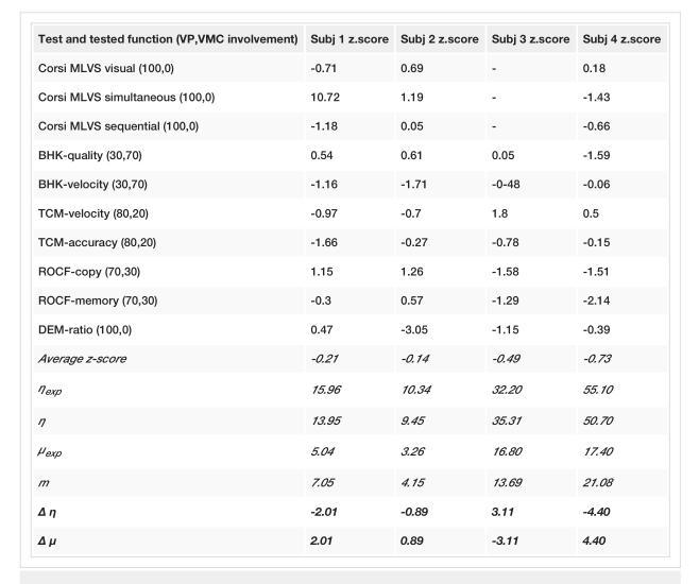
<table><tbody><tr><td>Test and tested function (VP,VMC involvement)</td><td>Subj 1 z.score</td><td>Subj 2 z.score</td><td>Subj 3 z.score</td><td>Subj 4 z.score</td></tr><tr><td>Corsi MLVS visual (100,0)</td><td>-0.71</td><td>0.69</td><td>-</td><td>0.18</td></tr><tr><td>Corsi MLVS simultaneous (100,0)</td><td>10.72</td><td>1.19</td><td>-</td><td>-1.43</td></tr><tr><td>Corsi MLVS sequential (100,0)</td><td>-1.18</td><td>0.05</td><td>-</td><td>-0.66</td></tr><tr><td>BHK-quality (30,70)</td><td>0.54</td><td>0.61</td><td>0.05</td><td>-1.59</td></tr><tr><td>BHK-velocity (30,70)</td><td>-1.16</td><td>-1.71</td><td>-0-48</td><td>-0.06</td></tr><tr><td>TCM-velocity (80,20)</td><td>-0.97</td><td>-0.7</td><td>1.8</td><td>0.5</td></tr><tr><td>TCM-accuracy (80,20)</td><td>-1.66</td><td>-0.27</td><td>-0.78</td><td>-0.15</td></tr><tr><td>ROCF-copy (70,30)</td><td>1.15</td><td>1.26</td><td>-1.58</td><td>-1.51</td></tr><tr><td>ROCF-memory (70,30)</td><td>-0.3</td><td>0.57</td><td>-1.29</td><td>-2.14</td></tr><tr><td>DEM-ratio (100,0)</td><td>0.47</td><td>-3.05</td><td>-1.15</td><td>-0.39</td></tr><tr><td>Average z-score</td><td>-0.21</td><td>-0.14</td><td>-0.49</td><td>-0.73</td></tr><tr><td>η<sub>exp</sub></td><td>15.96</td><td>10.34</td><td>32.20</td><td>55.10</td></tr><tr><td>η</td><td>13.95</td><td>9.45</td><td>35.31</td><td>50.70</td></tr><tr><td>μ<sub>exp</sub></td><td>5.04</td><td>3.26</td><td>16.80</td><td>17.40</td></tr><tr><td>m</td><td>7.05</td><td>4.15</td><td>13.69</td><td>21.08</td></tr><tr><td>Δ η</td><td>-2.01</td><td>-0.89</td><td>3.11</td><td>-4.40</td></tr><tr><td>Δ μ</td><td>2.01</td><td>0.89</td><td>-3.11</td><td>4.40</td></tr></tbody></table>